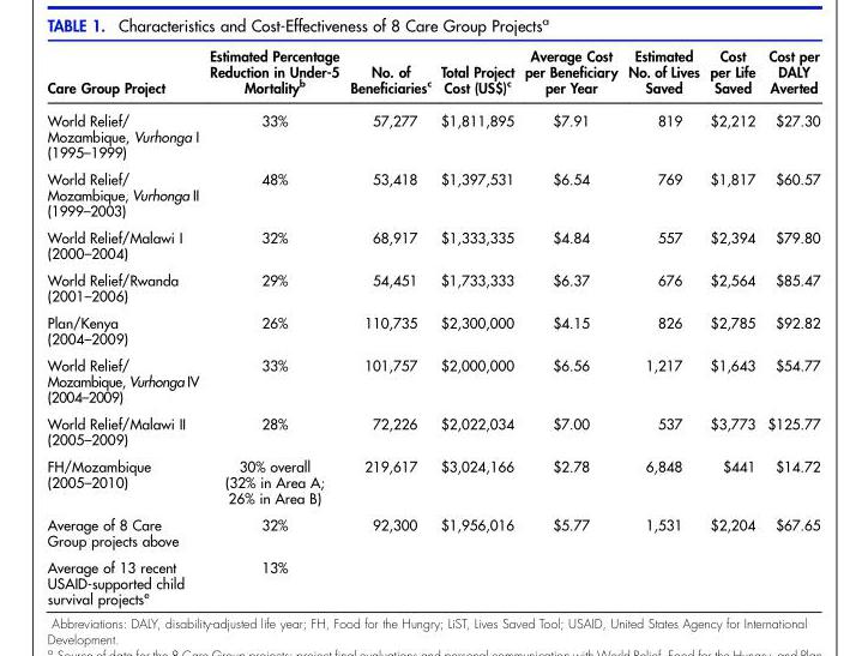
<table><thead><tr><td>Care Group Project</td><td>Estimated Percentage Reduction in Under-5 Mortality<sup>b</sup></td><td>No. of Beneficiaries<sup>c</sup></td><td>Total Project Cost (US$)<sup>c</sup></td><td>Average Cost per Beneficiary per Year</td><td>Estimated No. of Lives Saved</td><td>Cost per Life Saved</td><td>Cost per DALY Averted</td></tr></thead><tbody><tr><td>World Relief/ Mozambique, Vurhonga I (1995–1999)</td><td>33%</td><td>57,277</td><td>$1,811,895</td><td>$7.91</td><td>819</td><td>$2,212</td><td>$27.30</td></tr><tr><td>World Relief/ Mozambique, Vurhonga II (1999–2003)</td><td>48%</td><td>53,418</td><td>$1,397,531</td><td>$6.54</td><td>769</td><td>$1,817</td><td>$60.57</td></tr><tr><td>World Relief/Malawi I (2000–2004)</td><td>32%</td><td>68,917</td><td>$1,333,335</td><td>$4.84</td><td>557</td><td>$2,394</td><td>$79.80</td></tr><tr><td>World Relief/Rwanda (2001–2006)</td><td>29%</td><td>54,451</td><td>$1,733,333</td><td>$6.37</td><td>676</td><td>$2,564</td><td>$85.47</td></tr><tr><td>Plan/Kenya (2004–2009)</td><td>26%</td><td>110,735</td><td>$2,300,000</td><td>$4.15</td><td>826</td><td>$2,785</td><td>$92.82</td></tr><tr><td>World Relief/ Mozambique, Vurhonga IV (2004–2009)</td><td>33%</td><td>101,757</td><td>$2,000,000</td><td>$6.56</td><td>1,217</td><td>$1,643</td><td>$54.77</td></tr><tr><td>World Relief/Malawi II (2005–2009)</td><td>28%</td><td>72,226</td><td>$2,022,034</td><td>$7.00</td><td>537</td><td>$3,773</td><td>$125.77</td></tr><tr><td>FH/Mozambique (2005–2010)</td><td>30% overall (32% in Area A; 26% in Area B)</td><td>219,617</td><td>$3,024,166</td><td>$2.78</td><td>6,848</td><td>$441</td><td>$14.72</td></tr><tr><td>Average of 8 Care Group projects above</td><td>32%</td><td>92,300</td><td>$1,956,016</td><td>$5.77</td><td>1,531</td><td>$2,204</td><td>$67.65</td></tr><tr><td>Average of 13 recent USAID-supported child survival projects<sup>e</sup></td><td>13%</td><td></td><td></td><td></td><td></td><td></td><td></td></tr></tbody></table>